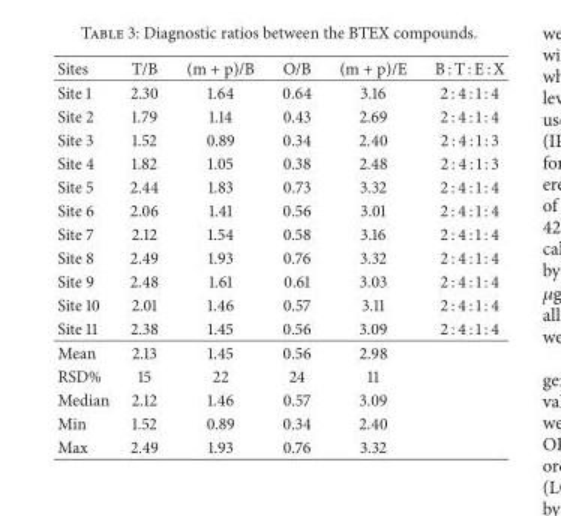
<table><thead><tr><td>Sites</td><td>T/B</td><td>(m + p)/B</td><td>O/B</td><td>(m + p)/E</td><td>B : T : E : X</td></tr></thead><tbody><tr><td>Site 1</td><td>2.30</td><td>1.64</td><td>0.64</td><td>3.16</td><td>2 : 4 : 1 : 4</td></tr><tr><td>Site 2</td><td>1.79</td><td>1.14</td><td>0.43</td><td>2.69</td><td>2 : 4 : 1 : 4</td></tr><tr><td>Site 3</td><td>1.52</td><td>0.89</td><td>0.34</td><td>2.40</td><td>2 : 4 : 1 : 3</td></tr><tr><td>Site 4</td><td>1.82</td><td>1.05</td><td>0.38</td><td>2.48</td><td>2 : 4 : 1 : 3</td></tr><tr><td>Site 5</td><td>2.44</td><td>1.83</td><td>0.73</td><td>3.32</td><td>2 : 4 : 1 : 4</td></tr><tr><td>Site 6</td><td>2.06</td><td>1.41</td><td>0.56</td><td>3.01</td><td>2 : 4 : 1 : 4</td></tr><tr><td>Site 7</td><td>2.12</td><td>1.54</td><td>0.58</td><td>3.16</td><td>2 : 4 : 1 : 4</td></tr><tr><td>Site 8</td><td>2.49</td><td>1.93</td><td>0.76</td><td>3.32</td><td>2 : 4 : 1 : 4</td></tr><tr><td>Site 9</td><td>2.48</td><td>1.61</td><td>0.61</td><td>3.03</td><td>2 : 4 : 1 : 4</td></tr><tr><td>Site 10</td><td>2.01</td><td>1.46</td><td>0.57</td><td>3.11</td><td>2 : 4 : 1 : 4</td></tr><tr><td>Site 11</td><td>2.38</td><td>1.45</td><td>0.56</td><td>3.09</td><td>2 : 4 : 1 : 4</td></tr><tr><td>Mean</td><td>2.13</td><td>1.45</td><td>0.56</td><td>2.98</td><td></td></tr><tr><td>RSD%</td><td>15</td><td>22</td><td>24</td><td>11</td><td></td></tr><tr><td>Median</td><td>2.12</td><td>1.46</td><td>0.57</td><td>3.09</td><td></td></tr><tr><td>Min</td><td>1.52</td><td>0.89</td><td>0.34</td><td>2.40</td><td></td></tr><tr><td>Max</td><td>2.49</td><td>1.93</td><td>0.76</td><td>3.32</td><td></td></tr></tbody></table>